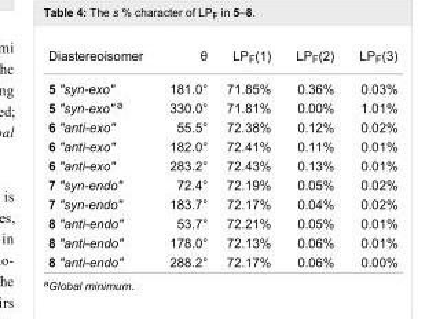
<table><tbody><tr><td>Diastereoisomer</td><td>θ</td><td>LP<sub>F</sub>(1)</td><td>LP<sub>F</sub>(2)</td><td>LP<sub>F</sub>(3)</td></tr><tr><td>5 &quot;syn-exo&quot;</td><td>181.0°</td><td>71.85%</td><td>0.36%</td><td>0.03%</td></tr><tr><td>5 &quot;syn-exo&quot; a</td><td>330.0°</td><td>71.81%</td><td>0.00%</td><td>1.01%</td></tr><tr><td>6 &quot;anti-exo&quot;</td><td>55.5°</td><td>72.38%</td><td>0.12%</td><td>0.02%</td></tr><tr><td>6 &quot;anti-exo&quot;</td><td>182.0°</td><td>72.41%</td><td>0.11%</td><td>0.01%</td></tr><tr><td>6 &quot;anti-exo&quot;</td><td>283.2°</td><td>72.43%</td><td>0.13%</td><td>0.01%</td></tr><tr><td>7 &quot;syn-endo&quot;</td><td>72.4°</td><td>72.19%</td><td>0.05%</td><td>0.02%</td></tr><tr><td>7 &quot;syn-endo&quot;</td><td>183.7°</td><td>72.17%</td><td>0.04%</td><td>0.02%</td></tr><tr><td>8 &quot;anti-endo&quot;</td><td>53.7°</td><td>72.21%</td><td>0.05%</td><td>0.01%</td></tr><tr><td>8 &quot;anti-endo&quot;</td><td>178.0°</td><td>72.13%</td><td>0.06%</td><td>0.01%</td></tr><tr><td>8 &quot;anti-endo&quot;</td><td>288.2°</td><td>72.17%</td><td>0.06%</td><td>0.00%</td></tr></tbody></table>